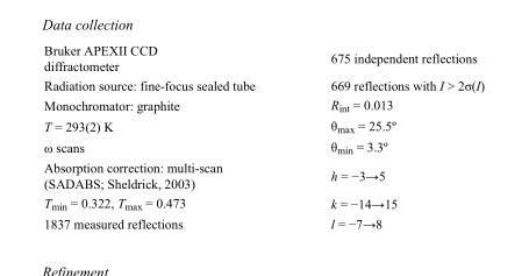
<table><tbody><tr><td>Bruker APEXII CCD diffractometer</td><td>675 independent reflections</td></tr><tr><td>Radiation source: fine-focus sealed tube</td><td>669 reflections with I &gt; 2σ(I)</td></tr><tr><td>Monochromator: graphite</td><td>R<sub>int</sub> = 0.013</td></tr><tr><td>T = 293(2) K</td><td>θ<sub>max</sub> = 25.5º</td></tr><tr><td>ω scans</td><td>θ<sub>min</sub> = 3.3º</td></tr><tr><td>Absorption correction: multi-scan (SADABS; Sheldrick, 2003)</td><td>h = −3→5</td></tr><tr><td>T<sub>min</sub> = 0.322, T<sub>max</sub> = 0.473</td><td>k = −14→15</td></tr><tr><td>1837 measured reflections</td><td>l = −7→8</td></tr></tbody></table>